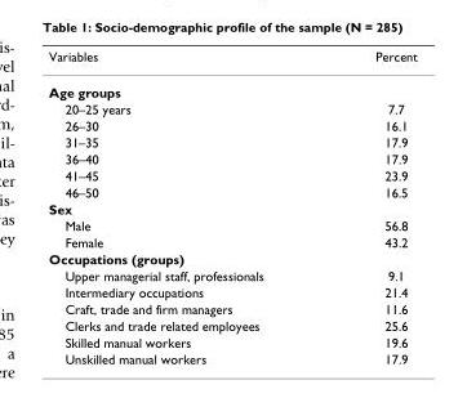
<table><thead><tr><td>Variables</td><td>Percent</td></tr></thead><tbody><tr><td colspan="2">Age groups</td></tr><tr><td>20–25 years</td><td>7.7</td></tr><tr><td>26–30</td><td>16.1</td></tr><tr><td>31–35</td><td>17.9</td></tr><tr><td>36–40</td><td>17.9</td></tr><tr><td>41–45</td><td>23.9</td></tr><tr><td>46–50</td><td>16.5</td></tr><tr><td colspan="2">Sex</td></tr><tr><td>Male</td><td>56.8</td></tr><tr><td>Female</td><td>43.2</td></tr><tr><td colspan="2">Occupations (groups)</td></tr><tr><td>Upper managerial staff, professionals</td><td>9.1</td></tr><tr><td>Intermediary occupations</td><td>21.4</td></tr><tr><td>Craft, trade and firm managers</td><td>11.6</td></tr><tr><td>Clerks and trade related employees</td><td>25.6</td></tr><tr><td>Skilled manual workers</td><td>19.6</td></tr><tr><td>Unskilled manual workers</td><td>17.9</td></tr></tbody></table>